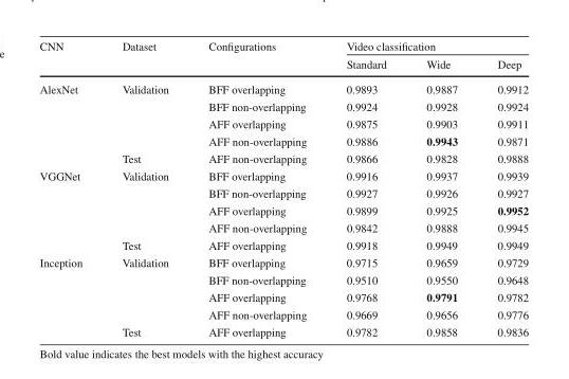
<table><thead><tr><td rowspan="2">CNN</td><td rowspan="2">Dataset</td><td rowspan="2">Configurations</td><td colspan="3">Video classification</td></tr><tr><td>Standard</td><td>Wide</td><td>Deep</td></tr></thead><tbody><tr><td rowspan="5">AlexNet</td><td rowspan="4">Validation</td><td>BFF overlapping</td><td>0.9893</td><td>0.9887</td><td>0.9912</td></tr><tr><td>BFF non-overlapping</td><td>0.9924</td><td>0.9928</td><td>0.9924</td></tr><tr><td>AFF overlapping</td><td>0.9875</td><td>0.9903</td><td>0.9911</td></tr><tr><td>AFF non-overlapping</td><td>0.9886</td><td>0.9943</td><td>0.9871</td></tr><tr><td>Test</td><td>AFF non-overlapping</td><td>0.9866</td><td>0.9828</td><td>0.9888</td></tr><tr><td rowspan="5">VGGNet</td><td rowspan="4">Validation</td><td>BFF overlapping</td><td>0.9916</td><td>0.9937</td><td>0.9939</td></tr><tr><td>BFF non-overlapping</td><td>0.9927</td><td>0.9926</td><td>0.9927</td></tr><tr><td>AFF overlapping</td><td>0.9899</td><td>0.9925</td><td>0.9952</td></tr><tr><td>AFF non-overlapping</td><td>0.9842</td><td>0.9888</td><td>0.9945</td></tr><tr><td>Test</td><td>AFF overlapping</td><td>0.9918</td><td>0.9949</td><td>0.9949</td></tr><tr><td rowspan="5">Inception</td><td rowspan="4">Validation</td><td>BFF overlapping</td><td>0.9715</td><td>0.9659</td><td>0.9729</td></tr><tr><td>BFF non-overlapping</td><td>0.9510</td><td>0.9550</td><td>0.9648</td></tr><tr><td>AFF overlapping</td><td>0.9768</td><td>0.9791</td><td>0.9782</td></tr><tr><td>AFF non-overlapping</td><td>0.9669</td><td>0.9656</td><td>0.9776</td></tr><tr><td>Test</td><td>AFF overlapping</td><td>0.9782</td><td>0.9858</td><td>0.9836</td></tr></tbody></table>